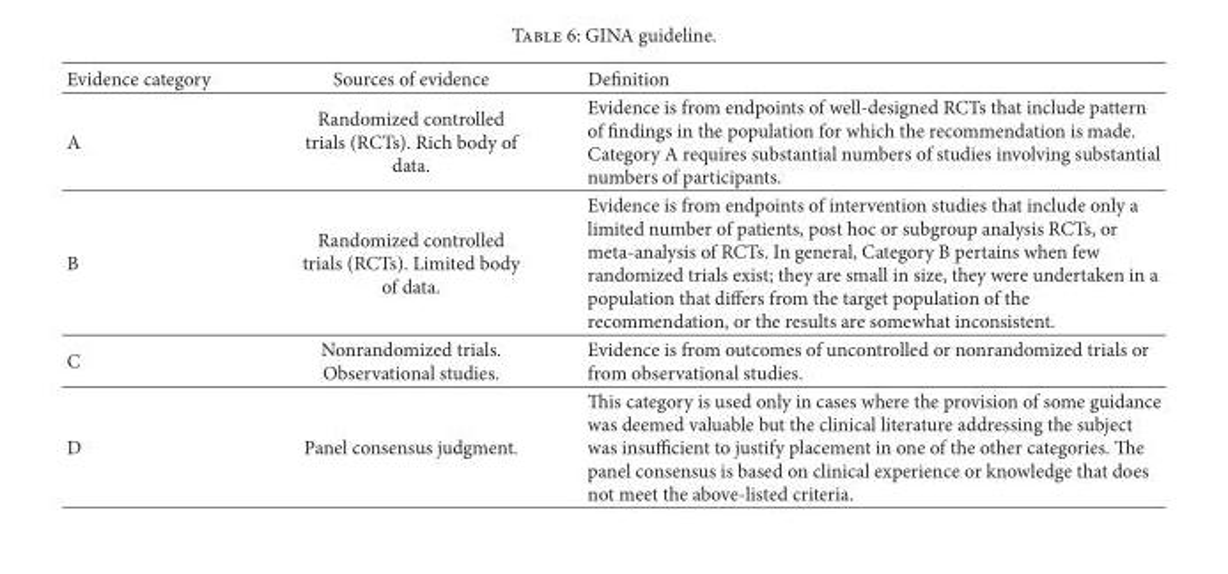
<table><thead><tr><td>Evidence category</td><td>Sources of evidence</td><td>Definition</td></tr></thead><tbody><tr><td>A</td><td>Randomized controlled trials (RCTs). Rich body of data.</td><td>Evidence is from endpoints of well-designed RCTs that include pattern of findings in the population for which the recommendation is made. Category A requires substantial numbers of studies involving substantial numbers of participants.</td></tr><tr><td>B</td><td>Randomized controlled trials (RCTs). Limited body of data.</td><td>Evidence is from endpoints of intervention studies that include only a limited number of patients, post hoc or subgroup analysis RCTs, or meta-analysis of RCTs. In general, Category B pertains when few randomized trials exist; they are small in size, they were undertaken in a population that differs from the target population of the recommendation, or the results are somewhat inconsistent.</td></tr><tr><td>C</td><td>Nonrandomized trials. Observational studies.</td><td>Evidence is from outcomes of uncontrolled or nonrandomized trials or from observational studies.</td></tr><tr><td>D</td><td>Panel consensus judgment.</td><td>This category is used only in cases where the provision of some guidance was deemed valuable but the clinical literature addressing the subject was insufficient to justify placement in one of the other categories. The panel consensus is based on clinical experience or knowledge that does not meet the above-listed criteria.</td></tr></tbody></table>